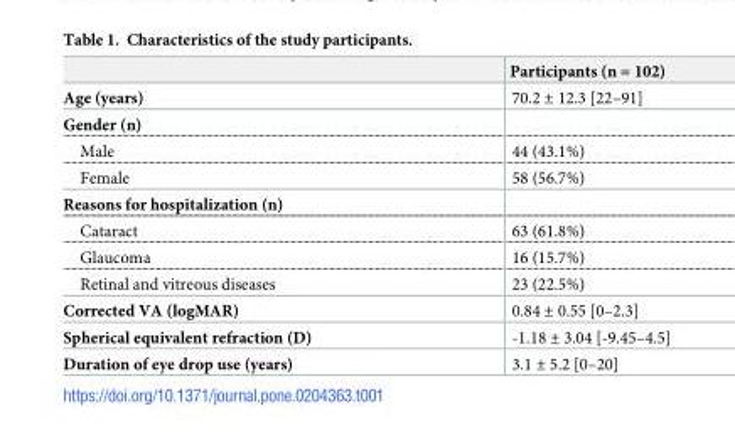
<table><thead><tr><td></td><td>Participants (n = 102)</td></tr></thead><tbody><tr><td>Age (years)</td><td>70.2 ± 12.3 [22–91]</td></tr><tr><td colspan="2">Gender (n)</td></tr><tr><td>Male</td><td>44 (43.1%)</td></tr><tr><td>Female</td><td>58 (56.7%)</td></tr><tr><td colspan="2">Reasons for hospitalization (n)</td></tr><tr><td>Cataract</td><td>63 (61.8%)</td></tr><tr><td>Glaucoma</td><td>16 (15.7%)</td></tr><tr><td>Retinal and vitreous diseases</td><td>23 (22.5%)</td></tr><tr><td>Corrected VA (logMAR)</td><td>0.84 ± 0.55 [0–2.3]</td></tr><tr><td>Spherical equivalent refraction (D)</td><td>-1.18 ± 3.04 [-9.45–4.5]</td></tr><tr><td>Duration of eye drop use (years)</td><td>3.1 ± 5.2 [0–20]</td></tr></tbody></table>